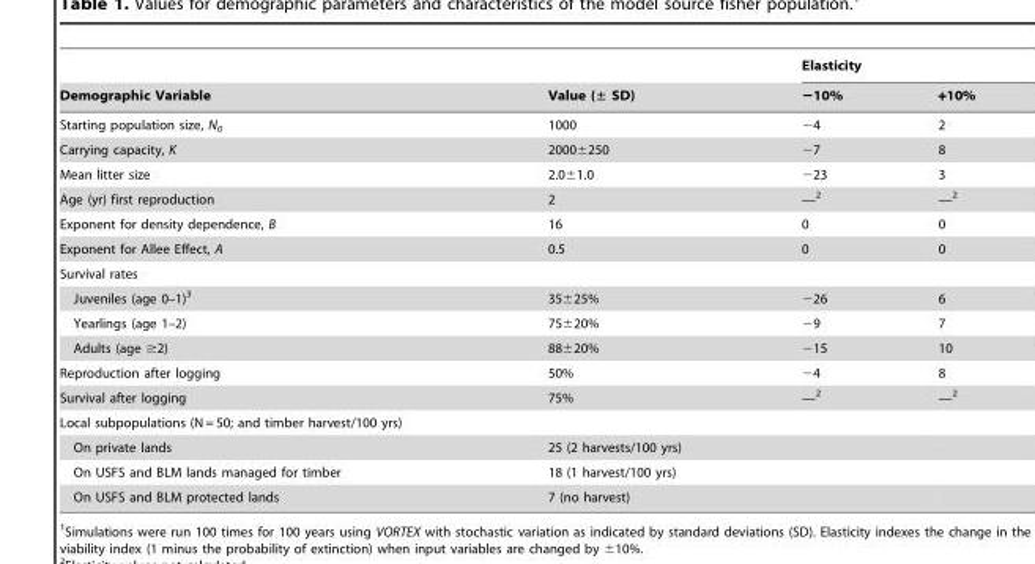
<table><thead><tr><td rowspan="2">Demographic Variable</td><td rowspan="2">Value (± SD)</td><td colspan="2">Elasticity</td></tr><tr><td>−10%</td><td>+10%</td></tr></thead><tbody><tr><td>Starting population size, N<sub>0</sub></td><td>1000</td><td>−4</td><td>2</td></tr><tr><td>Carrying capacity, K</td><td>2000±250</td><td>−7</td><td>8</td></tr><tr><td>Mean litter size</td><td>2.0±1.0</td><td>−23</td><td>3</td></tr><tr><td>Age (yr) first reproduction</td><td>2</td><td>—2</td><td>—2</td></tr><tr><td>Exponent for density dependence, B</td><td>16</td><td>0</td><td>0</td></tr><tr><td>Exponent for Allee Effect, A</td><td>0.5</td><td>0</td><td>0</td></tr><tr><td colspan="4">Survival rates</td></tr><tr><td>Juveniles (age 0–1)<sup>3</sup></td><td>35±25%</td><td>−26</td><td>6</td></tr><tr><td>Yearlings (age 1–2)</td><td>75±20%</td><td>−9</td><td>7</td></tr><tr><td>Adults (age ≥2)</td><td>88±20%</td><td>−15</td><td>10</td></tr><tr><td>Reproduction after logging</td><td>50%</td><td>−4</td><td>8</td></tr><tr><td>Survival after logging</td><td>75%</td><td>—2</td><td>—2</td></tr><tr><td colspan="4">Local subpopulations (N = 50; and timber harvest/100 yrs)</td></tr><tr><td>On private lands</td><td>25 (2 harvests/100 yrs)</td><td></td><td></td></tr><tr><td>On USFS and BLM lands managed for timber</td><td>18 (1 harvest/100 yrs)</td><td></td><td></td></tr><tr><td>On USFS and BLM protected lands</td><td>7 (no harvest)</td><td></td><td></td></tr></tbody></table>